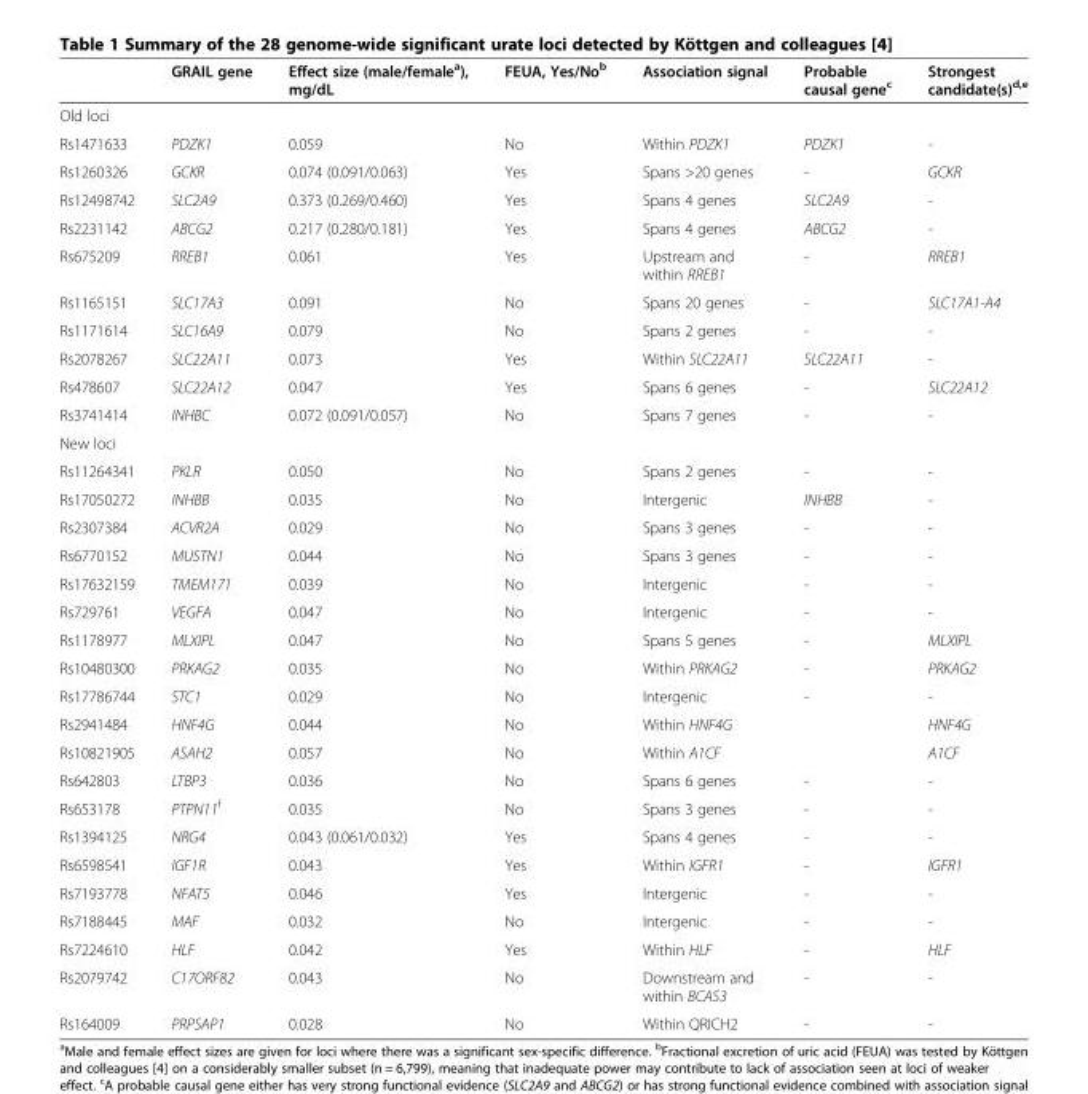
<table><thead><tr><td></td><td>GRAIL gene</td><td>Effect size (male/female<sup>a</sup>), mg/dL</td><td>FEUA, Yes/No<sup>b</sup></td><td>Association signal</td><td>Probable causal gene<sup>c</sup></td><td>Strongest candidate(s)<sup>d,e</sup></td></tr></thead><tbody><tr><td colspan="7">Old loci</td></tr><tr><td>Rs1471633</td><td>PDZK1</td><td>0.059</td><td>No</td><td>Within PDZK1</td><td>PDZK1</td><td>-</td></tr><tr><td>Rs1260326</td><td>GCKR</td><td>0.074 (0.091/0.063)</td><td>Yes</td><td>Spans &gt;20 genes</td><td>-</td><td>GCKR</td></tr><tr><td>Rs12498742</td><td>SLC2A9</td><td>0.373 (0.269/0.460)</td><td>Yes</td><td>Spans 4 genes</td><td>SLC2A9</td><td>-</td></tr><tr><td>Rs2231142</td><td>ABCG2</td><td>0.217 (0.280/0.181)</td><td>Yes</td><td>Spans 4 genes</td><td>ABCG2</td><td>-</td></tr><tr><td>Rs675209</td><td>RREB1</td><td>0.061</td><td>Yes</td><td>Upstream and within RREB1</td><td>-</td><td>RREB1</td></tr><tr><td>Rs1165151</td><td>SLC17A3</td><td>0.091</td><td>No</td><td>Spans 20 genes</td><td>-</td><td>SLC17A1-A4</td></tr><tr><td>Rs1171614</td><td>SLC16A9</td><td>0.079</td><td>No</td><td>Spans 2 genes</td><td>-</td><td>-</td></tr><tr><td>Rs2078267</td><td>SLC22A11</td><td>0.073</td><td>Yes</td><td>Within SLC22A11</td><td>SLC22A11</td><td>-</td></tr><tr><td>Rs478607</td><td>SLC22A12</td><td>0.047</td><td>Yes</td><td>Spans 6 genes</td><td>-</td><td>SLC22A12</td></tr><tr><td>Rs3741414</td><td>INHBC</td><td>0.072 (0.091/0.057)</td><td>No</td><td>Spans 7 genes</td><td>-</td><td>-</td></tr><tr><td colspan="7">New loci</td></tr><tr><td>Rs11264341</td><td>PKLR</td><td>0.050</td><td>No</td><td>Spans 2 genes</td><td>-</td><td>-</td></tr><tr><td>Rs17050272</td><td>INHBB</td><td>0.035</td><td>No</td><td>Intergenic</td><td>INHBB</td><td>-</td></tr><tr><td>Rs2307384</td><td>ACVR2A</td><td>0.029</td><td>No</td><td>Spans 3 genes</td><td>-</td><td>-</td></tr><tr><td>Rs6770152</td><td>MUSTN1</td><td>0.044</td><td>No</td><td>Spans 3 genes</td><td>-</td><td>-</td></tr><tr><td>Rs17632159</td><td>TMEM171</td><td>0.039</td><td>No</td><td>Intergenic</td><td>-</td><td>-</td></tr><tr><td>Rs729761</td><td>VEGFA</td><td>0.047</td><td>No</td><td>Intergenic</td><td>-</td><td>-</td></tr><tr><td>Rs1178977</td><td>MLXIPL</td><td>0.047</td><td>No</td><td>Spans 5 genes</td><td>-</td><td>MLXIPL</td></tr><tr><td>Rs10480300</td><td>PRKAG2</td><td>0.035</td><td>No</td><td>Within PRKAG2</td><td>-</td><td>PRKAG2</td></tr><tr><td>Rs17786744</td><td>STC1</td><td>0.029</td><td>No</td><td>Intergenic</td><td>-</td><td>-</td></tr><tr><td>Rs2941484</td><td>HNF4G</td><td>0.044</td><td>No</td><td>Within HNF4G</td><td></td><td>HNF4G</td></tr><tr><td>Rs10821905</td><td>ASAH2</td><td>0.057</td><td>No</td><td>Within A1CF</td><td></td><td>A1CF</td></tr><tr><td>Rs642803</td><td>LTBP3</td><td>0.036</td><td>No</td><td>Spans 6 genes</td><td>-</td><td>-</td></tr><tr><td>Rs653178</td><td>PTPN11<sup>f</sup></td><td>0.035</td><td>No</td><td>Spans 3 genes</td><td>-</td><td>-</td></tr><tr><td>Rs1394125</td><td>NRG4</td><td>0.043 (0.061/0.032)</td><td>Yes</td><td>Spans 4 genes</td><td>-</td><td>-</td></tr><tr><td>Rs6598541</td><td>IGF1R</td><td>0.043</td><td>Yes</td><td>Within IGFR1</td><td>-</td><td>IGFR1</td></tr><tr><td>Rs7193778</td><td>NFAT5</td><td>0.046</td><td>Yes</td><td>Intergenic</td><td>-</td><td>-</td></tr><tr><td>Rs7188445</td><td>MAF</td><td>0.032</td><td>No</td><td>Intergenic</td><td>-</td><td>-</td></tr><tr><td>Rs7224610</td><td>HLF</td><td>0.042</td><td>Yes</td><td>Within HLF</td><td>-</td><td>HLF</td></tr><tr><td>Rs2079742</td><td>C17ORF82</td><td>0.043</td><td>No</td><td>Downstream and within BCAS3</td><td>-</td><td>-</td></tr><tr><td>Rs164009</td><td>PRPSAP1</td><td>0.028</td><td>No</td><td>Within QRICH2</td><td>-</td><td>-</td></tr></tbody></table>